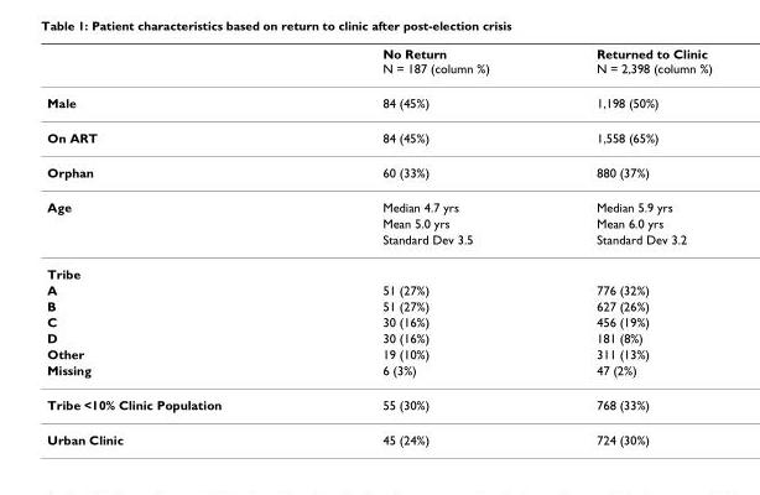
<table><thead><tr><td></td><td>No Return N = 187 (column %)</td><td>Returned to Clinic N = 2,398 (column %)</td></tr></thead><tbody><tr><td>Male</td><td>84 (45%)</td><td>1,198 (50%)</td></tr><tr><td>On ART</td><td>84 (45%)</td><td>1,558 (65%)</td></tr><tr><td>Orphan</td><td>60 (33%)</td><td>880 (37%)</td></tr><tr><td rowspan="3">Age</td><td>Median 4.7 yrs</td><td>Median 5.9 yrs</td></tr><tr><td>Mean 5.0 yrs</td><td>Mean 6.0 yrs</td></tr><tr><td>Standard Dev 3.5</td><td>Standard Dev 3.2</td></tr><tr><td colspan="3">Tribe</td></tr><tr><td>A</td><td>51 (27%)</td><td>776 (32%)</td></tr><tr><td>B</td><td>51 (27%)</td><td>627 (26%)</td></tr><tr><td>C</td><td>30 (16%)</td><td>456 (19%)</td></tr><tr><td>D</td><td>30 (16%)</td><td>181 (8%)</td></tr><tr><td>Other</td><td>19 (10%)</td><td>311 (13%)</td></tr><tr><td>Missing</td><td>6 (3%)</td><td>47 (2%)</td></tr><tr><td>Tribe &lt;10% Clinic Population</td><td>55 (30%)</td><td>768 (33%)</td></tr><tr><td>Urban Clinic</td><td>45 (24%)</td><td>724 (30%)</td></tr></tbody></table>